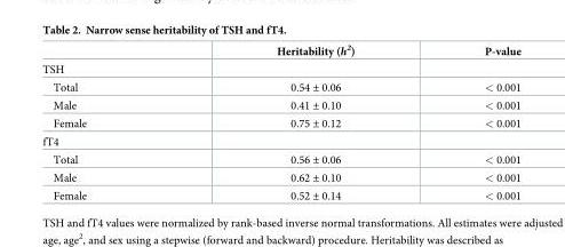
<table><thead><tr><td></td><td>Heritability (h<sup>2</sup>)</td><td>P-value</td></tr></thead><tbody><tr><td colspan="3">TSH</td></tr><tr><td>Total</td><td>0.54 ± 0.06</td><td>&lt; 0.001</td></tr><tr><td>Male</td><td>0.41 ± 0.10</td><td>&lt; 0.001</td></tr><tr><td>Female</td><td>0.75 ± 0.12</td><td>&lt; 0.001</td></tr><tr><td colspan="3">fT4</td></tr><tr><td>Total</td><td>0.56 ± 0.06</td><td>&lt; 0.001</td></tr><tr><td>Male</td><td>0.62 ± 0.10</td><td>&lt; 0.001</td></tr><tr><td>Female</td><td>0.52 ± 0.14</td><td>&lt; 0.001</td></tr></tbody></table>